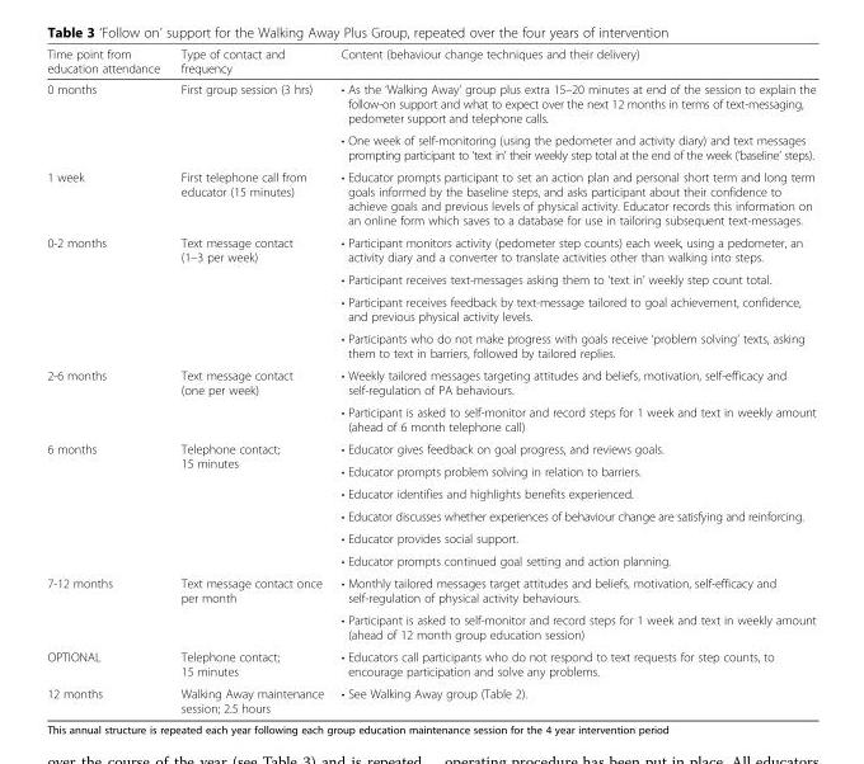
<table><thead><tr><td>Time point from education attendance</td><td>Type of contact and frequency</td><td>Content (behaviour change techniques and their delivery)</td></tr></thead><tbody><tr><td rowspan="2">0 months</td><td rowspan="2">First group session (3 hrs)</td><td>• As the ‘Walking Away’ group plus extra 15–20 minutes at end of the session to explain the follow-on support and what to expect over the next 12 months in terms of text-messaging, pedometer support and telephone calls.</td></tr><tr><td>• One week of self-monitoring (using the pedometer and activity diary) and text messages prompting participant to ‘text in’ their weekly step total at the end of the week (‘baseline’ steps).</td></tr><tr><td>1 week</td><td>First telephone call from educator (15 minutes)</td><td>• Educator prompts participant to set an action plan and personal short term and long term goals informed by the baseline steps, and asks participant about their confidence to achieve goals and previous levels of physical activity. Educator records this information on an online form which saves to a database for use in tailoring subsequent text-messages.</td></tr><tr><td rowspan="4">0-2 months</td><td rowspan="4">Text message contact (1–3 per week)</td><td>• Participant monitors activity (pedometer step counts) each week, using a pedometer, an activity diary and a converter to translate activities other than walking into steps.</td></tr><tr><td>• Participant receives text-messages asking them to ‘text in’ weekly step count total.</td></tr><tr><td>• Participant receives feedback by text-message tailored to goal achievement, confidence, and previous physical activity levels.</td></tr><tr><td>• Participants who do not make progress with goals receive ‘problem solving’ texts, asking them to text in barriers, followed by tailored replies.</td></tr><tr><td rowspan="2">2-6 months</td><td rowspan="2">Text message contact (one per week)</td><td>• Weekly tailored messages targeting attitudes and beliefs, motivation, self-efficacy and self-regulation of PA behaviours.</td></tr><tr><td>• Participant is asked to self-monitor and record steps for 1 week and text in weekly amount (ahead of 6 month telephone call)</td></tr><tr><td rowspan="6">6 months</td><td rowspan="6">Telephone contact; 15 minutes</td><td>• Educator gives feedback on goal progress, and reviews goals.</td></tr><tr><td>• Educator prompts problem solving in relation to barriers.</td></tr><tr><td>• Educator identifies and highlights benefits experienced.</td></tr><tr><td>• Educator discusses whether experiences of behaviour change are satisfying and reinforcing.</td></tr><tr><td>• Educator provides social support.</td></tr><tr><td>• Educator prompts continued goal setting and action planning.</td></tr><tr><td rowspan="2">7-12 months</td><td rowspan="2">Text message contact once per month</td><td>• Monthly tailored messages target attitudes and beliefs, motivation, self-efficacy and self-regulation of physical activity behaviours.</td></tr><tr><td>• Participant is asked to self-monitor and record steps for 1 week and text in weekly amount (ahead of 12 month group education session)</td></tr><tr><td>OPTIONAL</td><td>Telephone contact; 15 minutes</td><td>• Educators call participants who do not respond to text requests for step counts, to encourage participation and solve any problems.</td></tr><tr><td>12 months</td><td>Walking Away maintenance session; 2.5 hours</td><td>• See Walking Away group (Table 2).</td></tr></tbody></table>